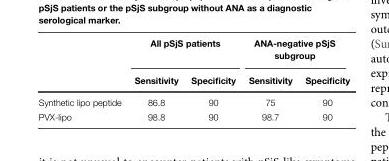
<table><thead><tr><td rowspan="2"></td><td colspan="2">All pSjS patients</td><td colspan="2">ANA-negative pSjS subgroup</td></tr><tr><td>Sensitivity</td><td>Specificity</td><td>Sensitivity</td><td>Specificity</td></tr></thead><tbody><tr><td>Synthetic lipo peptide</td><td>86.8</td><td>90</td><td>75</td><td>90</td></tr><tr><td>PVX-lipo</td><td>98.8</td><td>90</td><td>98.7</td><td>90</td></tr></tbody></table>